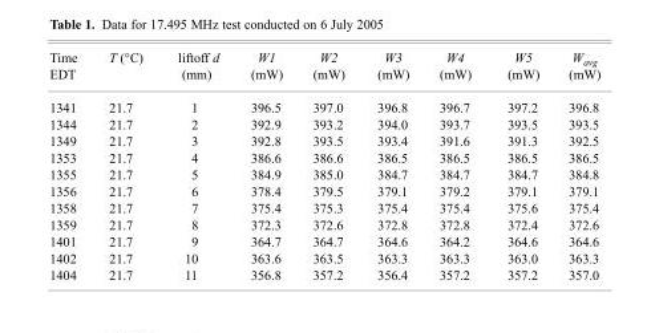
<table><thead><tr><td>Time EDT</td><td>T (°C)</td><td>liftoff d (mm)</td><td>W1 (mW)</td><td>W2 (mW)</td><td>W3 (mW)</td><td>W4 (mW)</td><td>W5 (mW)</td><td>W<sub>avg</sub> (mW)</td></tr></thead><tbody><tr><td>1341</td><td>21.7</td><td>1</td><td>396.5</td><td>397.0</td><td>396.8</td><td>396.7</td><td>397.2</td><td>396.8</td></tr><tr><td>1344</td><td>21.7</td><td>2</td><td>392.9</td><td>393.2</td><td>394.0</td><td>393.7</td><td>393.5</td><td>393.5</td></tr><tr><td>1349</td><td>21.7</td><td>3</td><td>392.8</td><td>393.5</td><td>393.4</td><td>391.6</td><td>391.3</td><td>392.5</td></tr><tr><td>1353</td><td>21.7</td><td>4</td><td>386.6</td><td>386.6</td><td>386.5</td><td>386.5</td><td>386.5</td><td>386.5</td></tr><tr><td>1355</td><td>21.7</td><td>5</td><td>384.9</td><td>385.0</td><td>384.7</td><td>384.7</td><td>384.7</td><td>384.8</td></tr><tr><td>1356</td><td>21.7</td><td>6</td><td>378.4</td><td>379.5</td><td>379.1</td><td>379.2</td><td>379.1</td><td>379.1</td></tr><tr><td>1358</td><td>21.7</td><td>7</td><td>375.4</td><td>375.3</td><td>375.4</td><td>375.4</td><td>375.6</td><td>375.4</td></tr><tr><td>1359</td><td>21.7</td><td>8</td><td>372.3</td><td>372.6</td><td>372.8</td><td>372.8</td><td>372.4</td><td>372.6</td></tr><tr><td>1401</td><td>21.7</td><td>9</td><td>364.7</td><td>364.7</td><td>364.6</td><td>364.2</td><td>364.6</td><td>364.6</td></tr><tr><td>1402</td><td>21.7</td><td>10</td><td>363.6</td><td>363.5</td><td>363.3</td><td>363.3</td><td>363.0</td><td>363.3</td></tr><tr><td>1404</td><td>21.7</td><td>11</td><td>356.8</td><td>357.2</td><td>356.4</td><td>357.2</td><td>357.2</td><td>357.0</td></tr></tbody></table>